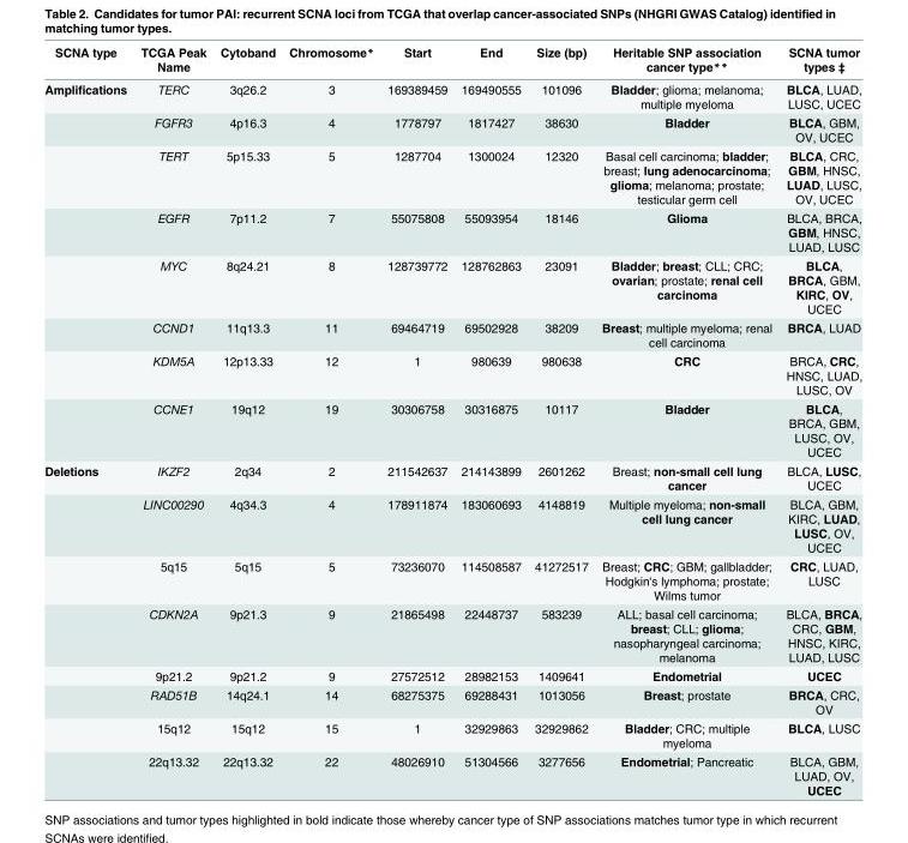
<table><thead><tr><td>SCNA type</td><td>TCGA Peak Name</td><td>Cytoband</td><td>Chromosome*</td><td>Start</td><td>End</td><td>Size (bp)</td><td>Heritable SNP association cancer type**</td><td>SCNA tumor types ‡</td></tr></thead><tbody><tr><td rowspan="8">Amplifications</td><td>TERC</td><td>3q26.2</td><td>3</td><td>169389459</td><td>169490555</td><td>101096</td><td>Bladder; glioma; melanoma; multiple myeloma</td><td>BLCA, LUAD, LUSC, UCEC</td></tr><tr><td>FGFR3</td><td>4p16.3</td><td>4</td><td>1778797</td><td>1817427</td><td>38630</td><td>Bladder</td><td>BLCA, GBM, OV, UCEC</td></tr><tr><td>TERT</td><td>5p15.33</td><td>5</td><td>1287704</td><td>1300024</td><td>12320</td><td>Basal cell carcinoma; bladder; breast; lung adenocarcinoma; glioma; melanoma; prostate; testicular germ cell</td><td>BLCA, CRC, GBM, HNSC, LUAD, LUSC, OV, UCEC</td></tr><tr><td>EGFR</td><td>7p11.2</td><td>7</td><td>55075808</td><td>55093954</td><td>18146</td><td>Glioma</td><td>BLCA, BRCA, GBM, HNSC, LUAD, LUSC</td></tr><tr><td>MYC</td><td>8q24.21</td><td>8</td><td>128739772</td><td>128762863</td><td>23091</td><td>Bladder; breast; CLL; CRC; ovarian; prostate; renal cell carcinoma</td><td>BLCA, BRCA, GBM, KIRC, OV, UCEC</td></tr><tr><td>CCND1</td><td>11q13.3</td><td>11</td><td>69464719</td><td>69502928</td><td>38209</td><td>Breast; multiple myeloma; renal cell carcinoma</td><td>BRCA, LUAD</td></tr><tr><td>KDM5A</td><td>12p13.33</td><td>12</td><td>1</td><td>980639</td><td>980638</td><td>CRC</td><td>BRCA, CRC, HNSC, LUAD, LUSC, OV</td></tr><tr><td>CCNE1</td><td>19q12</td><td>19</td><td>30306758</td><td>30316875</td><td>10117</td><td>Bladder</td><td>BLCA, BRCA, GBM, LUSC, OV, UCEC</td></tr><tr><td rowspan="8">Deletions</td><td>IKZF2</td><td>2q34</td><td>2</td><td>211542637</td><td>214143899</td><td>2601262</td><td>Breast; non-small cell lung cancer</td><td>BLCA, LUSC, UCEC</td></tr><tr><td>LINC00290</td><td>4q34.3</td><td>4</td><td>178911874</td><td>183060693</td><td>4148819</td><td>Multiple myeloma; non-small cell lung cancer</td><td>BLCA, GBM, KIRC, LUAD, LUSC, OV, UCEC</td></tr><tr><td>5q15</td><td>5q15</td><td>5</td><td>73236070</td><td>114508587</td><td>41272517</td><td>Breast; CRC; GBM; gallbladder; Hodgkin&#x27;s lymphoma; prostate; Wilms tumor</td><td>CRC, LUAD, LUSC</td></tr><tr><td>CDKN2A</td><td>9p21.3</td><td>9</td><td>21865498</td><td>22448737</td><td>583239</td><td>ALL; basal cell carcinoma; breast; CLL; glioma; nasopharyngeal carcinoma; melanoma</td><td>BLCA, BRCA, CRC, GBM, HNSC, KIRC, LUAD, LUSC</td></tr><tr><td>9p21.2</td><td>9p21.2</td><td>9</td><td>27572512</td><td>28982153</td><td>1409641</td><td>Endometrial</td><td>UCEC</td></tr><tr><td>RAD51B</td><td>14q24.1</td><td>14</td><td>68275375</td><td>69288431</td><td>1013056</td><td>Breast; prostate</td><td>BRCA, CRC, OV</td></tr><tr><td>15q12</td><td>15q12</td><td>15</td><td>1</td><td>32929863</td><td>32929862</td><td>Bladder; CRC; multiple myeloma</td><td>BLCA, LUSC</td></tr><tr><td>22q13.32</td><td>22q13.32</td><td>22</td><td>48026910</td><td>51304566</td><td>3277656</td><td>Endometrial; Pancreatic</td><td>BLCA, GBM, LUAD, OV, UCEC</td></tr></tbody></table>